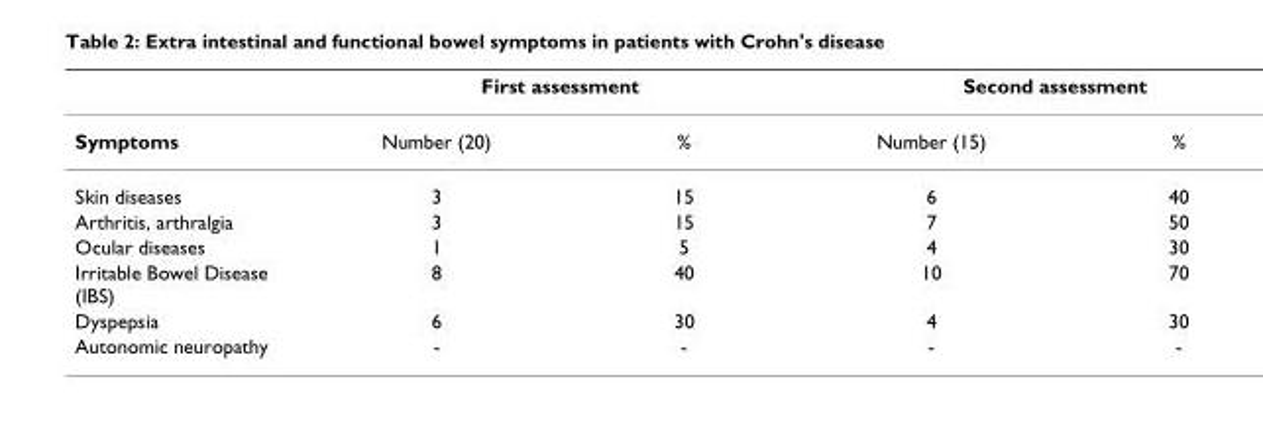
<table><thead><tr><td rowspan="2">Symptoms</td><td colspan="2">First assessment</td><td colspan="2">Second assessment</td></tr><tr><td>Number (20)</td><td>%</td><td>Number (15)</td><td>%</td></tr></thead><tbody><tr><td>Skin diseases</td><td>3</td><td>15</td><td>6</td><td>40</td></tr><tr><td>Arthritis, arthralgia</td><td>3</td><td>15</td><td>7</td><td>50</td></tr><tr><td>Ocular diseases</td><td>1</td><td>5</td><td>4</td><td>30</td></tr><tr><td>Irritable Bowel Disease (IBS)</td><td>8</td><td>40</td><td>10</td><td>70</td></tr><tr><td>Dyspepsia</td><td>6</td><td>30</td><td>4</td><td>30</td></tr><tr><td>Autonomic neuropathy</td><td>-</td><td>-</td><td>-</td><td>-</td></tr></tbody></table>